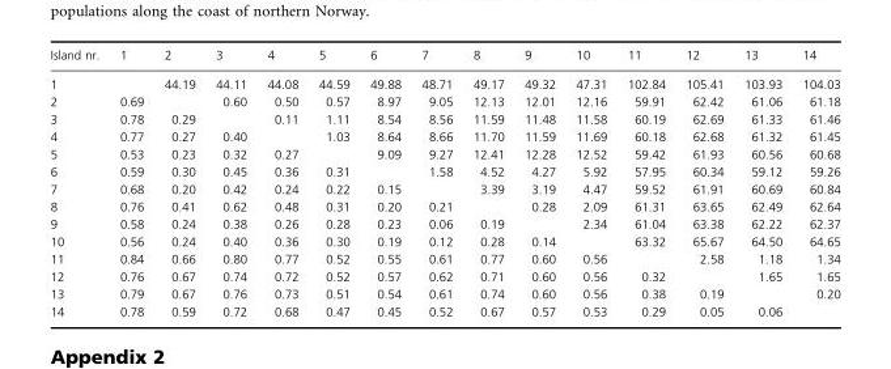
<table><thead><tr><td>Island nr.</td><td>1</td><td>2</td><td>3</td><td>4</td><td>5</td><td>6</td><td>7</td><td>8</td><td>9</td><td>10</td><td>11</td><td>12</td><td>13</td><td>14</td></tr></thead><tbody><tr><td>1</td><td></td><td>44.19</td><td>44.11</td><td>44.08</td><td>44.59</td><td>49.88</td><td>48.71</td><td>49.17</td><td>49.32</td><td>47.31</td><td>102.84</td><td>105.41</td><td>103.93</td><td>104.03</td></tr><tr><td>2</td><td>0.69</td><td></td><td>0.60</td><td>0.50</td><td>0.57</td><td>8.97</td><td>9.05</td><td>12.13</td><td>12.01</td><td>12.16</td><td>59.91</td><td>62.42</td><td>61.06</td><td>61.18</td></tr><tr><td>3</td><td>0.78</td><td>0.29</td><td></td><td>0.11</td><td>1.11</td><td>8.54</td><td>8.56</td><td>11.59</td><td>11.48</td><td>11.58</td><td>60.19</td><td>62.69</td><td>61.33</td><td>61.46</td></tr><tr><td>4</td><td>0.77</td><td>0.27</td><td>0.40</td><td></td><td>1.03</td><td>8.64</td><td>8.66</td><td>11.70</td><td>11.59</td><td>11.69</td><td>60.18</td><td>62.68</td><td>61.32</td><td>61.45</td></tr><tr><td>5</td><td>0.53</td><td>0.23</td><td>0.32</td><td>0.27</td><td></td><td>9.09</td><td>9.27</td><td>12.41</td><td>12.28</td><td>12.52</td><td>59.42</td><td>61.93</td><td>60.56</td><td>60.68</td></tr><tr><td>6</td><td>0.59</td><td>0.30</td><td>0.45</td><td>0.36</td><td>0.31</td><td></td><td>1.58</td><td>4.52</td><td>4.27</td><td>5.92</td><td>57.95</td><td>60.34</td><td>59.12</td><td>59.26</td></tr><tr><td>7</td><td>0.68</td><td>0.20</td><td>0.42</td><td>0.24</td><td>0.22</td><td>0.15</td><td></td><td>3.39</td><td>3.19</td><td>4.47</td><td>59.52</td><td>61.91</td><td>60.69</td><td>60.84</td></tr><tr><td>8</td><td>0.76</td><td>0.41</td><td>0.62</td><td>0.48</td><td>0.31</td><td>0.20</td><td>0.21</td><td></td><td>0.28</td><td>2.09</td><td>61.31</td><td>63.65</td><td>62.49</td><td>62.64</td></tr><tr><td>9</td><td>0.58</td><td>0.24</td><td>0.38</td><td>0.26</td><td>0.28</td><td>0.23</td><td>0.06</td><td>0.19</td><td></td><td>2.34</td><td>61.04</td><td>63.38</td><td>62.22</td><td>62.37</td></tr><tr><td>10</td><td>0.56</td><td>0.24</td><td>0.40</td><td>0.36</td><td>0.30</td><td>0.19</td><td>0.12</td><td>0.28</td><td>0.14</td><td></td><td>63.32</td><td>65.67</td><td>64.50</td><td>64.65</td></tr><tr><td>11</td><td>0.84</td><td>0.66</td><td>0.80</td><td>0.77</td><td>0.52</td><td>0.55</td><td>0.61</td><td>0.77</td><td>0.60</td><td>0.56</td><td></td><td>2.58</td><td>1.18</td><td>1.34</td></tr><tr><td>12</td><td>0.76</td><td>0.67</td><td>0.74</td><td>0.72</td><td>0.52</td><td>0.57</td><td>0.62</td><td>0.71</td><td>0.60</td><td>0.56</td><td>0.32</td><td></td><td>1.65</td><td>1.65</td></tr><tr><td>13</td><td>0.79</td><td>0.67</td><td>0.76</td><td>0.73</td><td>0.51</td><td>0.54</td><td>0.61</td><td>0.74</td><td>0.60</td><td>0.56</td><td>0.38</td><td>0.19</td><td></td><td>0.20</td></tr><tr><td>14</td><td>0.78</td><td>0.59</td><td>0.72</td><td>0.68</td><td>0.47</td><td>0.45</td><td>0.52</td><td>0.67</td><td>0.57</td><td>0.53</td><td>0.29</td><td>0.05</td><td>0.06</td><td></td></tr></tbody></table>